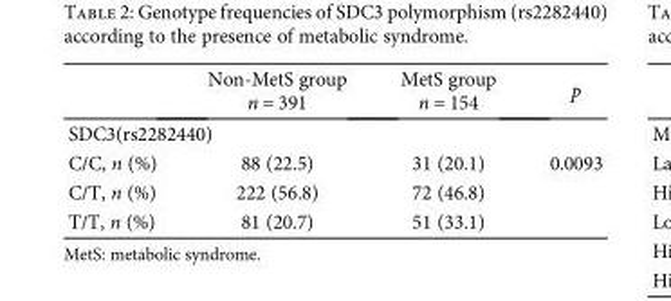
<table><thead><tr><td></td><td>Non-MetS group n = 391</td><td>MetS group n = 154</td><td>p</td></tr></thead><tbody><tr><td colspan="4">SDC3(rs2282440)</td></tr><tr><td>C/C, n (%)</td><td>88 (22.5)</td><td>31 (20.1)</td><td>0.0093</td></tr><tr><td>C/T, n (%)</td><td>222 (56.8)</td><td>72 (46.8)</td><td></td></tr><tr><td>T/T, n (%)</td><td>81 (20.7)</td><td>51 (33.1)</td><td></td></tr></tbody></table>